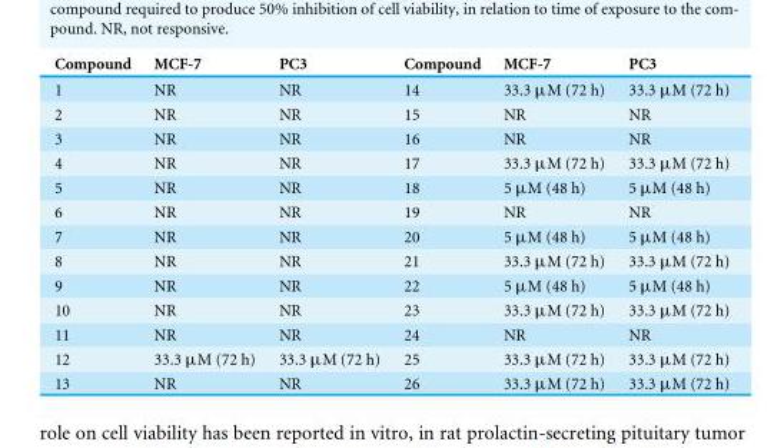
<table><thead><tr><td>Compound</td><td>MCF-7</td><td>PC3</td><td>Compound</td><td>MCF-7</td><td>PC3</td></tr></thead><tbody><tr><td>1</td><td>NR</td><td>NR</td><td>14</td><td>33.3 µM (72 h)</td><td>33.3 µM (72 h)</td></tr><tr><td>2</td><td>NR</td><td>NR</td><td>15</td><td>NR</td><td>NR</td></tr><tr><td>3</td><td>NR</td><td>NR</td><td>16</td><td>NR</td><td>NR</td></tr><tr><td>4</td><td>NR</td><td>NR</td><td>17</td><td>33.3 µM (72 h)</td><td>33.3 µM (72 h)</td></tr><tr><td>5</td><td>NR</td><td>NR</td><td>18</td><td>5 µM (48 h)</td><td>5 µM (48 h)</td></tr><tr><td>6</td><td>NR</td><td>NR</td><td>19</td><td>NR</td><td>NR</td></tr><tr><td>7</td><td>NR</td><td>NR</td><td>20</td><td>5 µM (48 h)</td><td>5 µM (48 h)</td></tr><tr><td>8</td><td>NR</td><td>NR</td><td>21</td><td>33.3 µM (72 h)</td><td>33.3 µM (72 h)</td></tr><tr><td>9</td><td>NR</td><td>NR</td><td>22</td><td>5 µM (48 h)</td><td>5 µM (48 h)</td></tr><tr><td>10</td><td>NR</td><td>NR</td><td>23</td><td>33.3 µM (72 h)</td><td>33.3 µM (72 h)</td></tr><tr><td>11</td><td>NR</td><td>NR</td><td>24</td><td>NR</td><td>NR</td></tr><tr><td>12</td><td>33.3 µM (72 h)</td><td>33.3 µM (72 h)</td><td>25</td><td>33.3 µM (72 h)</td><td>33.3 µM (72 h)</td></tr><tr><td>13</td><td>NR</td><td>NR</td><td>26</td><td>33.3 µM (72 h)</td><td>33.3 µM (72 h)</td></tr></tbody></table>